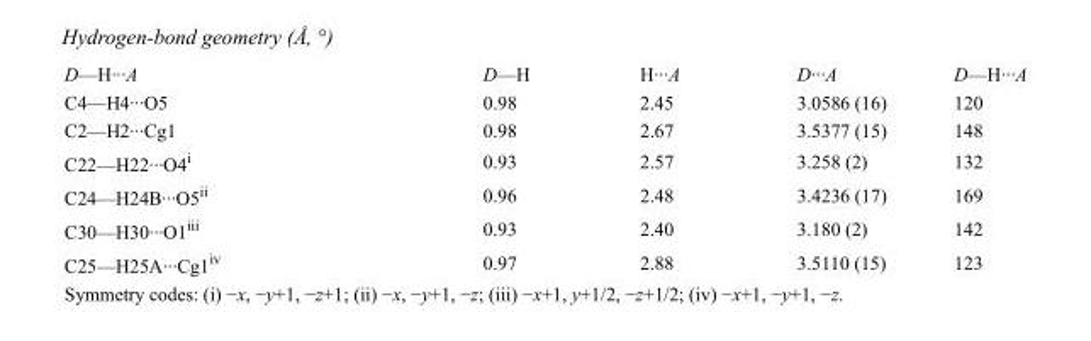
<table><tbody><tr><td>D—H···A</td><td>D—H</td><td>H···A</td><td>D···A</td><td>D—H···A</td></tr><tr><td>C4—H4···O5</td><td>0.98</td><td>2.45</td><td>3.0586 (16)</td><td>120</td></tr><tr><td>C2—H2···Cg1</td><td>0.98</td><td>2.67</td><td>3.5377 (15)</td><td>148</td></tr><tr><td>C22—H22···O4<sup>i</sup></td><td>0.93</td><td>2.57</td><td>3.258 (2)</td><td>132</td></tr><tr><td>C24—H24B···O5<sup>ii</sup></td><td>0.96</td><td>2.48</td><td>3.4236 (17)</td><td>169</td></tr><tr><td>C30—H30···O1<sup>iii</sup></td><td>0.93</td><td>2.40</td><td>3.180 (2)</td><td>142</td></tr><tr><td>C25—H25A···Cg1<sup>iv</sup></td><td>0.97</td><td>2.88</td><td>3.5110 (15)</td><td>123</td></tr></tbody></table>